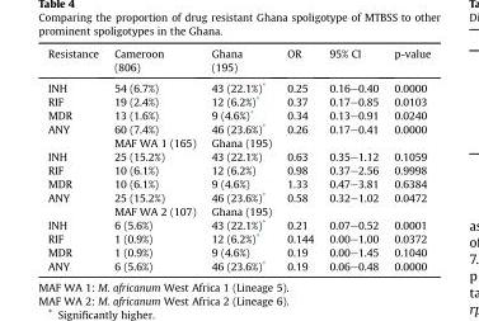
<table><thead><tr><td>Resistance</td><td>Cameroon (806)</td><td>Ghana (195)</td><td>OR</td><td>95% CI</td><td>p-value</td></tr></thead><tbody><tr><td>INH</td><td>54 (6.7%)</td><td>43 (22.1%)*</td><td>0.25</td><td>0.16–0.40</td><td>0.0000</td></tr><tr><td>RIF</td><td>19 (2.4%)</td><td>12 (6.2%)*</td><td>0.37</td><td>0.17–0.85</td><td>0.0103</td></tr><tr><td>MDR</td><td>13 (1.6%)</td><td>9 (4.6%)*</td><td>0.34</td><td>0.13–0.91</td><td>0.0240</td></tr><tr><td rowspan="2">ANY</td><td>60 (7.4%)</td><td>46 (23.6%)*</td><td>0.26</td><td>0.17–0.41</td><td>0.0000</td></tr><tr><td>MAF WA 1 (165)</td><td>Ghana (195)</td><td></td><td></td><td></td></tr><tr><td>INH</td><td>25 (15.2%)</td><td>43 (22.1%)</td><td>0.63</td><td>0.35–1.12</td><td>0.1059</td></tr><tr><td>RIF</td><td>10 (6.1%)</td><td>12 (6.2%)</td><td>0.98</td><td>0.37–2.56</td><td>0.9998</td></tr><tr><td>MDR</td><td>10 (6.1%)</td><td>9 (4.6%)</td><td>1.33</td><td>0.47–3.81</td><td>0.6384</td></tr><tr><td rowspan="2">ANY</td><td>25 (15.2%)</td><td>46 (23.6%)*</td><td>0.58</td><td>0.32–1.02</td><td>0.0472</td></tr><tr><td>MAF WA 2 (107)</td><td>Ghana (195)</td><td></td><td></td><td></td></tr><tr><td>INH</td><td>6 (5.6%)</td><td>43 (22.1%)*</td><td>0.21</td><td>0.07–0.52</td><td>0.0001</td></tr><tr><td>RIF</td><td>1 (0.9%)</td><td>12 (6.2%)*</td><td>0.144</td><td>0.00–1.00</td><td>0.0372</td></tr><tr><td>MDR</td><td>1 (0.9%)</td><td>9 (4.6%)</td><td>0.19</td><td>0.00–1.45</td><td>0.1040</td></tr><tr><td>ANY</td><td>6 (5.6%)</td><td>46 (23.6%)*</td><td>0.19</td><td>0.06–0.48</td><td>0.0000</td></tr></tbody></table>